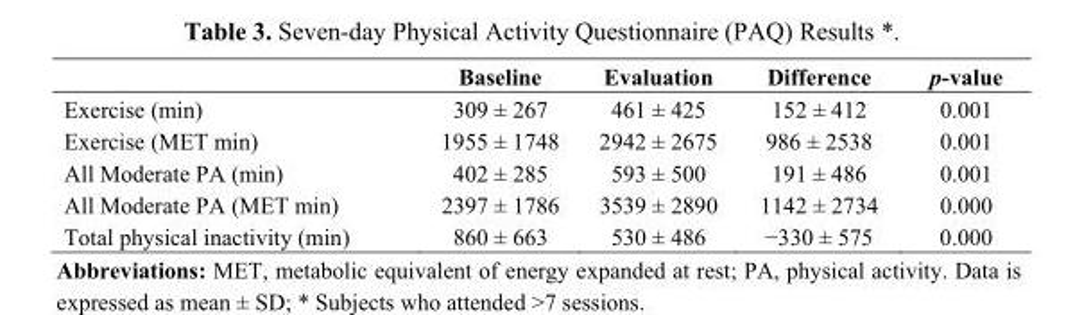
<table><thead><tr><td></td><td>Baseline</td><td>Evaluation</td><td>Difference</td><td>p-value</td></tr></thead><tbody><tr><td>Exercise (min)</td><td>309 ± 267</td><td>461 ± 425</td><td>152 ± 412</td><td>0.001</td></tr><tr><td>Exercise (MET min)</td><td>1955 ± 1748</td><td>2942 ± 2675</td><td>986 ± 2538</td><td>0.001</td></tr><tr><td>All Moderate PA (min)</td><td>402 ± 285</td><td>593 ± 500</td><td>191 ± 486</td><td>0.001</td></tr><tr><td>All Moderate PA (MET min)</td><td>2397 ± 1786</td><td>3539 ± 2890</td><td>1142 ± 2734</td><td>0.000</td></tr><tr><td>Total physical inactivity (min)</td><td>860 ± 663</td><td>530 ± 486</td><td>−330 ± 575</td><td>0.000</td></tr></tbody></table>